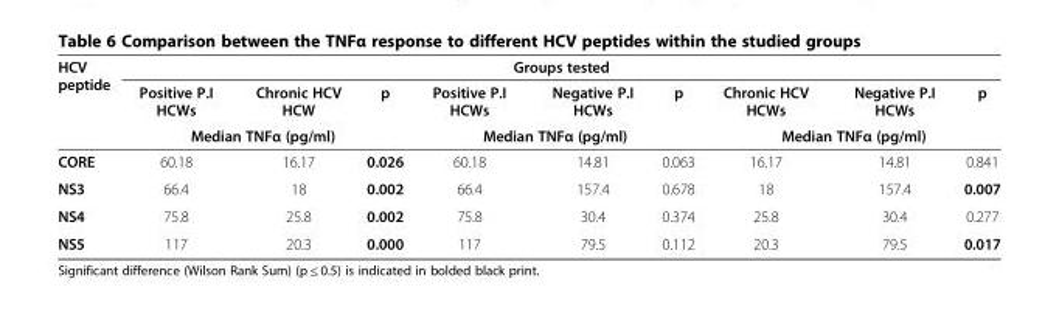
<table><thead><tr><td rowspan="3">HCV peptide</td><td colspan="9">Groups tested</td></tr><tr><td>Positive P.I HCWs</td><td>Chronic HCV HCW</td><td>p</td><td>Positive P.I HCWs</td><td>Negative P.I HCWs</td><td>p</td><td>Chronic HCV HCWs</td><td>Negative P.I HCWs</td><td>p</td></tr><tr><td colspan="3">Median TNFα (pg/ml)</td><td colspan="3">Median TNFα (pg/ml)</td><td colspan="3">Median TNFα (pg/ml)</td></tr></thead><tbody><tr><td>CORE</td><td>60.18</td><td>16.17</td><td>0.026</td><td>60.18</td><td>14.81</td><td>0.063</td><td>16.17</td><td>14.81</td><td>0.841</td></tr><tr><td>NS3</td><td>66.4</td><td>18</td><td>0.002</td><td>66.4</td><td>157.4</td><td>0.678</td><td>18</td><td>157.4</td><td>0.007</td></tr><tr><td>NS4</td><td>75.8</td><td>25.8</td><td>0.002</td><td>75.8</td><td>30.4</td><td>0.374</td><td>25.8</td><td>30.4</td><td>0.277</td></tr><tr><td>NS5</td><td>117</td><td>20.3</td><td>0.000</td><td>117</td><td>79.5</td><td>0.112</td><td>20.3</td><td>79.5</td><td>0.017</td></tr></tbody></table>